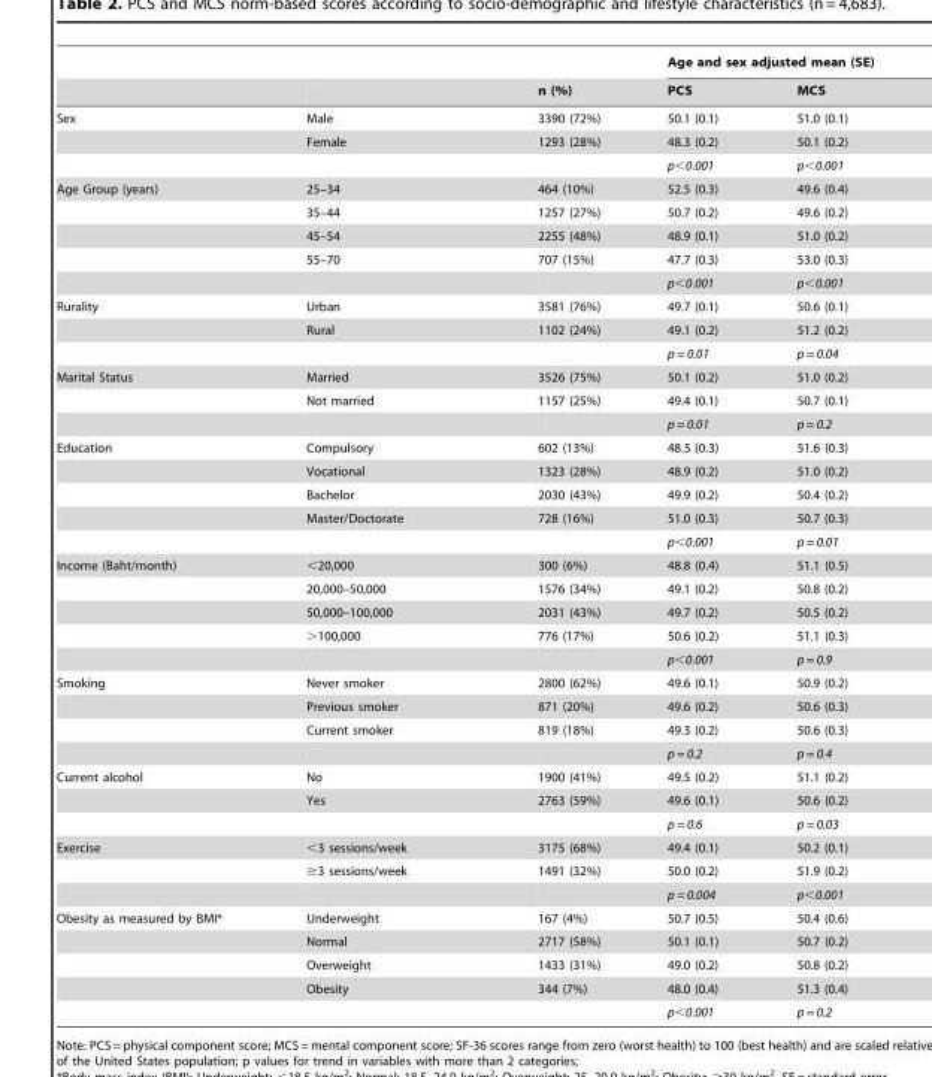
<table><thead><tr><td rowspan="2"></td><td rowspan="2"></td><td rowspan="2">n (%)</td><td colspan="2">Age and sex adjusted mean (SE)</td></tr><tr><td>PCS</td><td>MCS</td></tr></thead><tbody><tr><td rowspan="3">Sex</td><td>Male</td><td>3390 (72%)</td><td>50.1 (0.1)</td><td>51.0 (0.1)</td></tr><tr><td>Female</td><td>1293 (28%)</td><td>48.3 (0.2)</td><td>50.1 (0.2)</td></tr><tr><td></td><td></td><td>p&lt;0.001</td><td>p&lt;0.001</td></tr><tr><td rowspan="5">Age Group (years)</td><td>25–34</td><td>464 (10%)</td><td>52.5 (0.3)</td><td>49.6 (0.4)</td></tr><tr><td>35–44</td><td>1257 (27%)</td><td>50.7 (0.2)</td><td>49.6 (0.2)</td></tr><tr><td>45–54</td><td>2255 (48%)</td><td>48.9 (0.1)</td><td>51.0 (0.2)</td></tr><tr><td>55–70</td><td>707 (15%)</td><td>47.7 (0.3)</td><td>53.0 (0.3)</td></tr><tr><td></td><td></td><td>p&lt;0.001</td><td>p&lt;0.001</td></tr><tr><td rowspan="3">Rurality</td><td>Urban</td><td>3581 (76%)</td><td>49.7 (0.1)</td><td>50.6 (0.1)</td></tr><tr><td>Rural</td><td>1102 (24%)</td><td>49.1 (0.2)</td><td>51.2 (0.2)</td></tr><tr><td></td><td></td><td>p = 0.01</td><td>p = 0.04</td></tr><tr><td rowspan="3">Marital Status</td><td>Married</td><td>3526 (75%)</td><td>50.1 (0.2)</td><td>51.0 (0.2)</td></tr><tr><td>Not married</td><td>1157 (25%)</td><td>49.4 (0.1)</td><td>50.7 (0.1)</td></tr><tr><td></td><td></td><td>p = 0.01</td><td>p = 0.2</td></tr><tr><td rowspan="5">Education</td><td>Compulsory</td><td>602 (13%)</td><td>48.5 (0.3)</td><td>51.6 (0.3)</td></tr><tr><td>Vocational</td><td>1323 (28%)</td><td>48.9 (0.2)</td><td>51.0 (0.2)</td></tr><tr><td>Bachelor</td><td>2030 (43%)</td><td>49.9 (0.2)</td><td>50.4 (0.2)</td></tr><tr><td>Master/Doctorate</td><td>728 (16%)</td><td>51.0 (0.3)</td><td>50.7 (0.3)</td></tr><tr><td></td><td></td><td>p&lt;0.001</td><td>p = 0.01</td></tr><tr><td rowspan="5">Income (Baht/month)</td><td>&lt;20,000</td><td>300 (6%)</td><td>48.8 (0.4)</td><td>51.1 (0.5)</td></tr><tr><td>20,000–50,000</td><td>1576 (34%)</td><td>49.1 (0.2)</td><td>50.8 (0.2)</td></tr><tr><td>50,000–100,000</td><td>2031 (43%)</td><td>49.7 (0.2)</td><td>50.5 (0.2)</td></tr><tr><td>&gt;100,000</td><td>776 (17%)</td><td>50.6 (0.2)</td><td>51.1 (0.3)</td></tr><tr><td></td><td></td><td>p&lt;0.001</td><td>p = 0.9</td></tr><tr><td rowspan="4">Smoking</td><td>Never smoker</td><td>2800 (62%)</td><td>49.6 (0.1)</td><td>50.9 (0.2)</td></tr><tr><td>Previous smoker</td><td>871 (20%)</td><td>49.6 (0.2)</td><td>50.6 (0.3)</td></tr><tr><td>Current smoker</td><td>819 (18%)</td><td>49.3 (0.2)</td><td>50.6 (0.3)</td></tr><tr><td></td><td></td><td>p = 0.2</td><td>p = 0.4</td></tr><tr><td rowspan="3">Current alcohol</td><td>No</td><td>1900 (41%)</td><td>49.5 (0.2)</td><td>51.1 (0.2)</td></tr><tr><td>Yes</td><td>2763 (59%)</td><td>49.6 (0.1)</td><td>50.6 (0.2)</td></tr><tr><td></td><td></td><td>p = 0.6</td><td>p = 0.03</td></tr><tr><td rowspan="3">Exercise</td><td>&lt;3 sessions/week</td><td>3175 (68%)</td><td>49.4 (0.1)</td><td>50.2 (0.1)</td></tr><tr><td>≥3 sessions/week</td><td>1491 (32%)</td><td>50.0 (0.2)</td><td>51.9 (0.2)</td></tr><tr><td></td><td></td><td>p = 0.004</td><td>p&lt;0.001</td></tr><tr><td rowspan="5">Obesity as measured by BMI*</td><td>Underweight</td><td>167 (4%)</td><td>50.7 (0.5)</td><td>50.4 (0.6)</td></tr><tr><td>Normal</td><td>2717 (58%)</td><td>50.1 (0.1)</td><td>50.7 (0.2)</td></tr><tr><td>Overweight</td><td>1433 (31%)</td><td>49.0 (0.2)</td><td>50.8 (0.2)</td></tr><tr><td>Obesity</td><td>344 (7%)</td><td>48.0 (0.4)</td><td>51.3 (0.4)</td></tr><tr><td></td><td></td><td>p&lt;0.001</td><td>p = 0.2</td></tr></tbody></table>